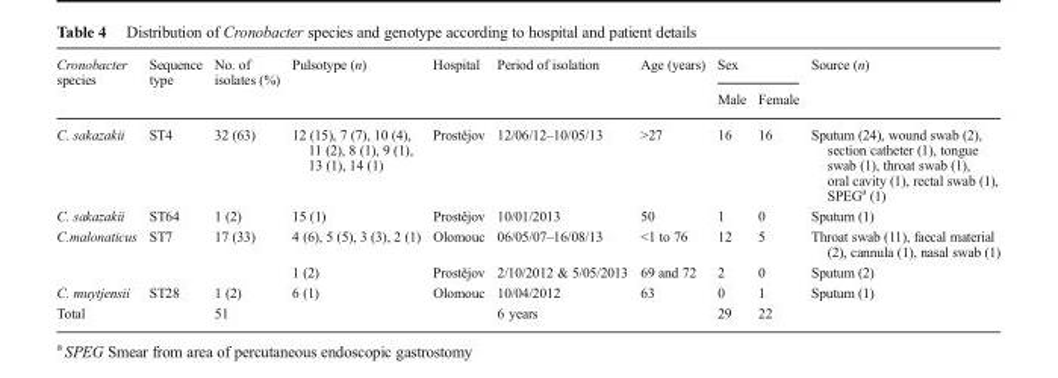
<table><thead><tr><td rowspan="2">Cronobacter species</td><td rowspan="2">Sequence type</td><td rowspan="2">No. of isolates (%)</td><td rowspan="2">Pulsotype (n)</td><td rowspan="2">Hospital</td><td rowspan="2">Period of isolation</td><td rowspan="2">Age (years)</td><td colspan="2">Sex</td><td rowspan="2">Source (n)</td></tr><tr><td>Male</td><td>Female</td></tr></thead><tbody><tr><td>C. sakazakii</td><td>ST4</td><td>32 (63)</td><td>12 (15), 7 (7), 10 (4), 11 (2), 8 (1), 9 (1), 13 (1), 14 (1)</td><td>Prostějov</td><td>12/06/12–10/05/13</td><td>&gt;27</td><td>16</td><td>16</td><td>Sputum (24), wound swab (2), section catheter (1), tongue swab (1), throat swab (1), oral cavity (1), rectal swab (1), SPEG<sup>a</sup> (1)</td></tr><tr><td>C. sakazakii</td><td>ST64</td><td>1 (2)</td><td>15 (1)</td><td>Prostějov</td><td>10/01/2013</td><td>50</td><td>1</td><td>0</td><td>Sputum (1)</td></tr><tr><td rowspan="2">C.malonaticus</td><td rowspan="2">ST7</td><td rowspan="2">17 (33)</td><td>4 (6), 5 (5), 3 (3), 2 (1)</td><td>Olomouc</td><td>06/05/07–16/08/13</td><td>&lt;1 to 76</td><td>12</td><td>5</td><td>Throat swab (11), faecal material (2), cannula (1), nasal swab (1)</td></tr><tr><td>1 (2)</td><td>Prostějov</td><td>2/10/2012 &amp; 5/05/2013</td><td>69 and 72</td><td>2</td><td>0</td><td>Sputum (2)</td></tr><tr><td>C. muytjensii</td><td>ST28</td><td>1 (2)</td><td>6 (1)</td><td>Olomouc</td><td>10/04/2012</td><td>63</td><td>0</td><td>1</td><td>Sputum (1)</td></tr><tr><td>Total</td><td></td><td>51</td><td></td><td></td><td>6 years</td><td></td><td>29</td><td>22</td><td></td></tr></tbody></table>